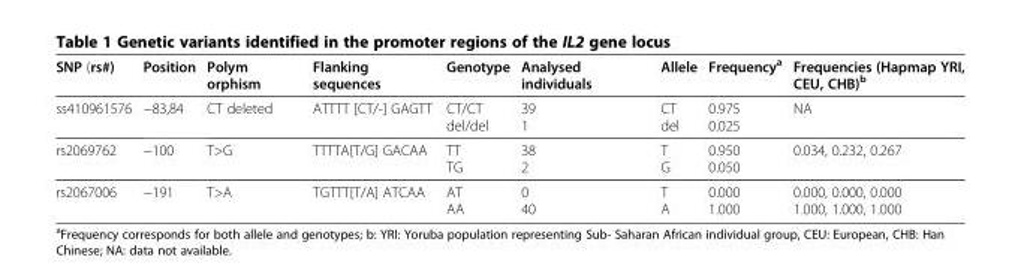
<table><thead><tr><td>SNP (rs#)</td><td>Position</td><td>Polym orphism</td><td>Flanking sequences</td><td>Genotype</td><td>Analysed individuals</td><td>Allele</td><td>Frequency<sup>a</sup></td><td>Frequencies (Hapmap YRI, CEU, CHB)<sup>b</sup></td></tr></thead><tbody><tr><td rowspan="2">ss410961576</td><td>−83,84</td><td>CT deleted</td><td>ATTTT [CT/-] GAGTT</td><td>CT/CT</td><td>39</td><td>CT</td><td>0.975</td><td>NA</td></tr><tr><td></td><td></td><td></td><td>del/del</td><td>1</td><td>del</td><td>0.025</td><td></td></tr><tr><td rowspan="2">rs2069762</td><td>−100</td><td>T&gt;G</td><td>TTTTA[T/G] GACAA</td><td>TT</td><td>38</td><td>T</td><td>0.950</td><td>0.034, 0.232, 0.267</td></tr><tr><td></td><td></td><td></td><td>TG</td><td>2</td><td>G</td><td>0.050</td><td></td></tr><tr><td rowspan="2">rs2067006</td><td>−191</td><td>T&gt;A</td><td>TGTTT[T/A] ATCAA</td><td>AT</td><td>0</td><td>T</td><td>0.000</td><td>0.000, 0.000, 0.000</td></tr><tr><td></td><td></td><td></td><td>AA</td><td>40</td><td>A</td><td>1.000</td><td>1.000, 1.000, 1.000</td></tr></tbody></table>